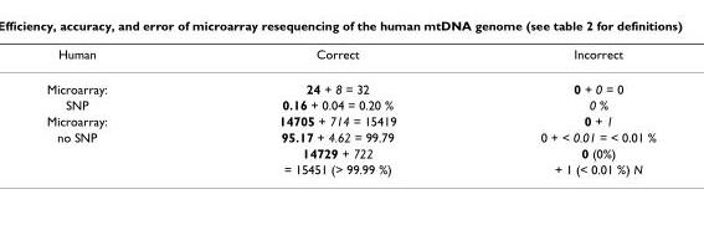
<table><thead><tr><td>Human</td><td>Correct</td><td>Incorrect</td></tr></thead><tbody><tr><td>Microarray:</td><td>24 + 8 = 32</td><td>0 + 0 = 0</td></tr><tr><td>SNP</td><td>0.16 + 0.04 = 0.20 %</td><td>0 %</td></tr><tr><td>Microarray:</td><td>14705 + 714 = 15419</td><td>0 + 1</td></tr><tr><td rowspan="3">no SNP</td><td>95.17 + 4.62 = 99.79</td><td>0 + &lt; 0.01 = &lt; 0.01 %</td></tr><tr><td>14729 + 722</td><td>0 (0%)</td></tr><tr><td>= 15451 (&gt; 99.99 %)</td><td>+ 1 (&lt; 0.01 %) N</td></tr></tbody></table>